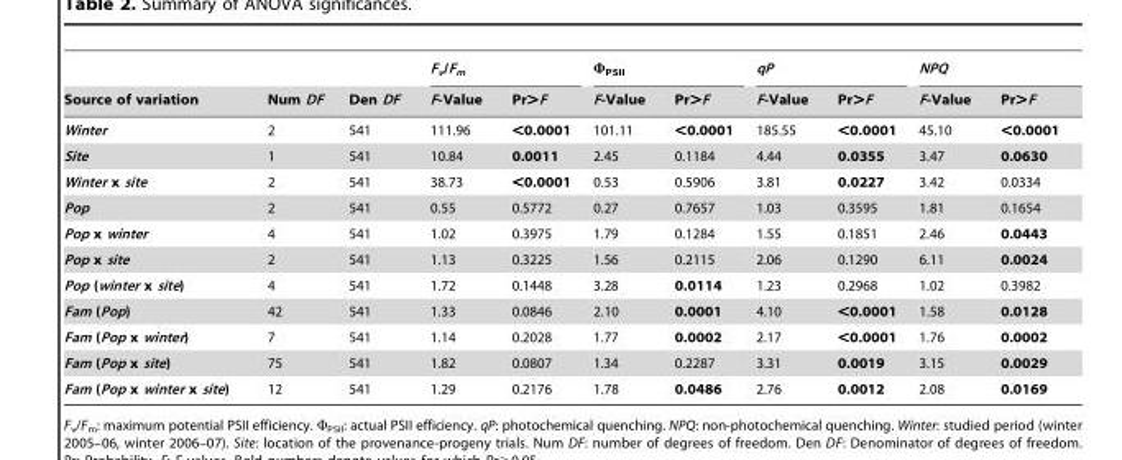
<table><thead><tr><td rowspan="2">Source of variation</td><td rowspan="2">Num DF</td><td rowspan="2">Den DF</td><td colspan="2">F<sub>v</sub>/F<sub>m</sub></td><td colspan="2">Φ<sub>PSII</sub></td><td colspan="2">qP</td><td colspan="2">NPQ</td></tr><tr><td>F-Value</td><td>Pr&gt;F</td><td>F-Value</td><td>Pr&gt;F</td><td>F-Value</td><td>Pr&gt;F</td><td>F-Value</td><td>Pr&gt;F</td></tr></thead><tbody><tr><td>Winter</td><td>2</td><td>541</td><td>111.96</td><td>&lt;0.0001</td><td>101.11</td><td>&lt;0.0001</td><td>185.55</td><td>&lt;0.0001</td><td>45.10</td><td>&lt;0.0001</td></tr><tr><td>Site</td><td>1</td><td>541</td><td>10.84</td><td>0.0011</td><td>2.45</td><td>0.1184</td><td>4.44</td><td>0.0355</td><td>3.47</td><td>0.0630</td></tr><tr><td>Winter x site</td><td>2</td><td>541</td><td>38.73</td><td>&lt;0.0001</td><td>0.53</td><td>0.5906</td><td>3.81</td><td>0.0227</td><td>3.42</td><td>0.0334</td></tr><tr><td>Pop</td><td>2</td><td>541</td><td>0.55</td><td>0.5772</td><td>0.27</td><td>0.7657</td><td>1.03</td><td>0.3595</td><td>1.81</td><td>0.1654</td></tr><tr><td>Pop x winter</td><td>4</td><td>541</td><td>1.02</td><td>0.3975</td><td>1.79</td><td>0.1284</td><td>1.55</td><td>0.1851</td><td>2.46</td><td>0.0443</td></tr><tr><td>Pop x site</td><td>2</td><td>541</td><td>1.13</td><td>0.3225</td><td>1.56</td><td>0.2115</td><td>2.06</td><td>0.1290</td><td>6.11</td><td>0.0024</td></tr><tr><td>Pop (winter x site)</td><td>4</td><td>541</td><td>1.72</td><td>0.1448</td><td>3.28</td><td>0.0114</td><td>1.23</td><td>0.2968</td><td>1.02</td><td>0.3982</td></tr><tr><td>Fam (Pop)</td><td>42</td><td>541</td><td>1.33</td><td>0.0846</td><td>2.10</td><td>0.0001</td><td>4.10</td><td>&lt;0.0001</td><td>1.58</td><td>0.0128</td></tr><tr><td>Fam (Pop x winter)</td><td>7</td><td>541</td><td>1.14</td><td>0.2028</td><td>1.77</td><td>0.0002</td><td>2.17</td><td>&lt;0.0001</td><td>1.76</td><td>0.0002</td></tr><tr><td>Fam (Pop x site)</td><td>75</td><td>541</td><td>1.82</td><td>0.0807</td><td>1.34</td><td>0.2287</td><td>3.31</td><td>0.0019</td><td>3.15</td><td>0.0029</td></tr><tr><td>Fam (Pop x winter x site)</td><td>12</td><td>541</td><td>1.29</td><td>0.2176</td><td>1.78</td><td>0.0486</td><td>2.76</td><td>0.0012</td><td>2.08</td><td>0.0169</td></tr></tbody></table>